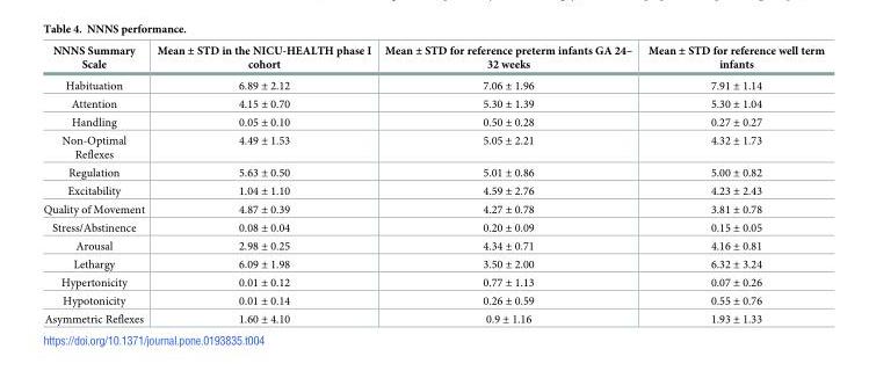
<table><thead><tr><td>NNNS Summary Scale</td><td>Mean ± STD in the NICU-HEALTH phase I cohort</td><td>Mean ± STD for reference preterm infants GA 24– 32 weeks</td><td>Mean ± STD for reference well term infants</td></tr></thead><tbody><tr><td>Habituation</td><td>6.89 ± 2.12</td><td>7.06 ± 1.96</td><td>7.91 ± 1.14</td></tr><tr><td>Attention</td><td>4.15 ± 0.70</td><td>5.30 ± 1.39</td><td>5.30 ± 1.04</td></tr><tr><td>Handling</td><td>0.05 ± 0.10</td><td>0.50 ± 0.28</td><td>0.27 ± 0.27</td></tr><tr><td>Non-Optimal Reflexes</td><td>4.49 ± 1.53</td><td>5.05 ± 2.21</td><td>4.32 ± 1.73</td></tr><tr><td>Regulation</td><td>5.63 ± 0.50</td><td>5.01 ± 0.86</td><td>5.00 ± 0.82</td></tr><tr><td>Excitability</td><td>1.04 ± 1.10</td><td>4.59 ± 2.76</td><td>4.23 ± 2.43</td></tr><tr><td>Quality of Movement</td><td>4.87 ± 0.39</td><td>4.27 ± 0.78</td><td>3.81 ± 0.78</td></tr><tr><td>Stress/Abstinence</td><td>0.08 ± 0.04</td><td>0.20 ± 0.09</td><td>0.15 ± 0.05</td></tr><tr><td>Arousal</td><td>2.98 ± 0.25</td><td>4.34 ± 0.71</td><td>4.16 ± 0.81</td></tr><tr><td>Lethargy</td><td>6.09 ± 1.98</td><td>3.50 ± 2.00</td><td>6.32 ± 3.24</td></tr><tr><td>Hypertonicity</td><td>0.01 ± 0.12</td><td>0.77 ± 1.13</td><td>0.07 ± 0.26</td></tr><tr><td>Hypotonicity</td><td>0.01 ± 0.14</td><td>0.26 ± 0.59</td><td>0.55 ± 0.76</td></tr><tr><td>Asymmetric Reflexes</td><td>1.60 ± 4.10</td><td>0.9 ± 1.16</td><td>1.93 ± 1.33</td></tr></tbody></table>